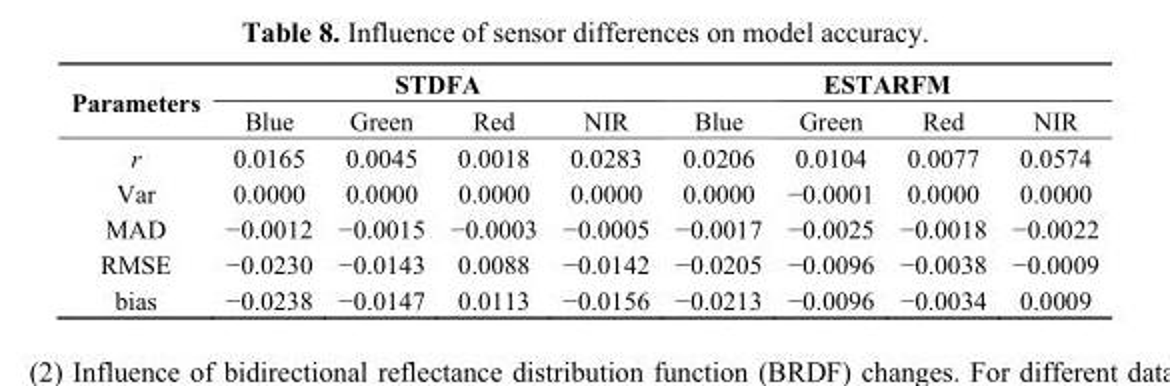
<table><tbody><tr><td rowspan="2">Parameters</td><td colspan="4">STDFA</td><td colspan="4">ESTARFM</td></tr><tr><td>Blue</td><td>Green</td><td>Red</td><td>NIR</td><td>Blue</td><td>Green</td><td>Red</td><td>NIR</td></tr><tr><td>r</td><td>0.0165</td><td>0.0045</td><td>0.0018</td><td>0.0283</td><td>0.0206</td><td>0.0104</td><td>0.0077</td><td>0.0574</td></tr><tr><td>Var</td><td>0.0000</td><td>0.0000</td><td>0.0000</td><td>0.0000</td><td>0.0000</td><td>−0.0001</td><td>0.0000</td><td>0.0000</td></tr><tr><td>MAD</td><td>−0.0012</td><td>−0.0015</td><td>−0.0003</td><td>−0.0005</td><td>−0.0017</td><td>−0.0025</td><td>−0.0018</td><td>−0.0022</td></tr><tr><td>RMSE</td><td>−0.0230</td><td>−0.0143</td><td>0.0088</td><td>−0.0142</td><td>−0.0205</td><td>−0.0096</td><td>−0.0038</td><td>−0.0009</td></tr><tr><td>bias</td><td>−0.0238</td><td>−0.0147</td><td>0.0113</td><td>−0.0156</td><td>−0.0213</td><td>−0.0096</td><td>−0.0034</td><td>0.0009</td></tr></tbody></table>